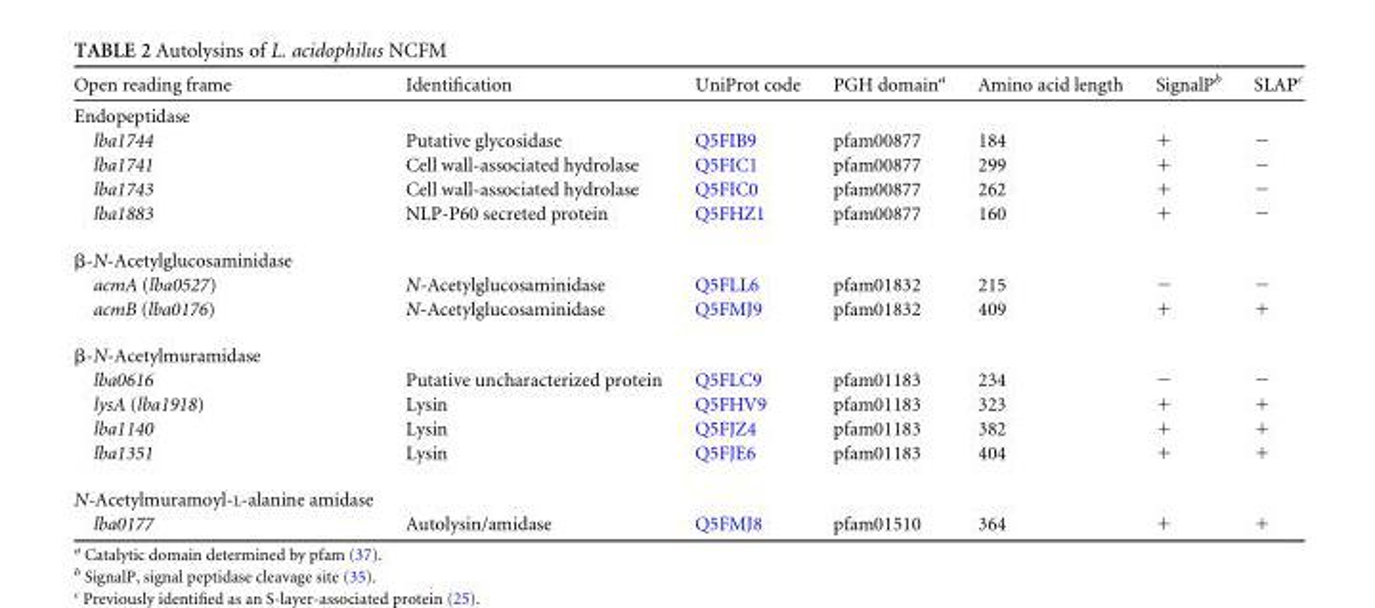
<table><thead><tr><td>Open reading frame</td><td>Identification</td><td>UniProt code</td><td>PGH domain<sup>a</sup></td><td>Amino acid length</td><td>SignalP<sup>b</sup></td><td>SLAP<sup>c</sup></td></tr></thead><tbody><tr><td colspan="7">Endopeptidase</td></tr><tr><td>lba1744</td><td>Putative glycosidase</td><td>Q5FIB9</td><td>pfam00877</td><td>184</td><td>+</td><td>−</td></tr><tr><td>lba1741</td><td>Cell wall-associated hydrolase</td><td>Q5FIC1</td><td>pfam00877</td><td>299</td><td>+</td><td>−</td></tr><tr><td>lba1743</td><td>Cell wall-associated hydrolase</td><td>Q5FIC0</td><td>pfam00877</td><td>262</td><td>+</td><td>−</td></tr><tr><td>lba1883</td><td>NLP-P60 secreted protein</td><td>Q5FHZ1</td><td>pfam00877</td><td>160</td><td>+</td><td>−</td></tr><tr><td colspan="7">β-N-Acetylglucosaminidase</td></tr><tr><td>acmA (lba0527)</td><td>N-Acetylglucosaminidase</td><td>Q5FLL6</td><td>pfam01832</td><td>215</td><td>−</td><td>−</td></tr><tr><td>acmB (lba0176)</td><td>N-Acetylglucosaminidase</td><td>Q5FMJ9</td><td>pfam01832</td><td>409</td><td>+</td><td>+</td></tr><tr><td colspan="7">β-N-Acetylmuramidase</td></tr><tr><td>lba0616</td><td>Putative uncharacterized protein</td><td>Q5FLC9</td><td>pfam01183</td><td>234</td><td>−</td><td>−</td></tr><tr><td>lysA (lba1918)</td><td>Lysin</td><td>Q5FHV9</td><td>pfam01183</td><td>323</td><td>+</td><td>+</td></tr><tr><td>lba1140</td><td>Lysin</td><td>Q5FJZ4</td><td>pfam01183</td><td>382</td><td>+</td><td>+</td></tr><tr><td>lba1351</td><td>Lysin</td><td>Q5FJE6</td><td>pfam01183</td><td>404</td><td>+</td><td>+</td></tr><tr><td colspan="7">N-Acetylmuramoyl-L-alanine amidase</td></tr><tr><td>lba0177</td><td>Autolysin/amidase</td><td>Q5FMJ8</td><td>pfam01510</td><td>364</td><td>+</td><td>+</td></tr></tbody></table>